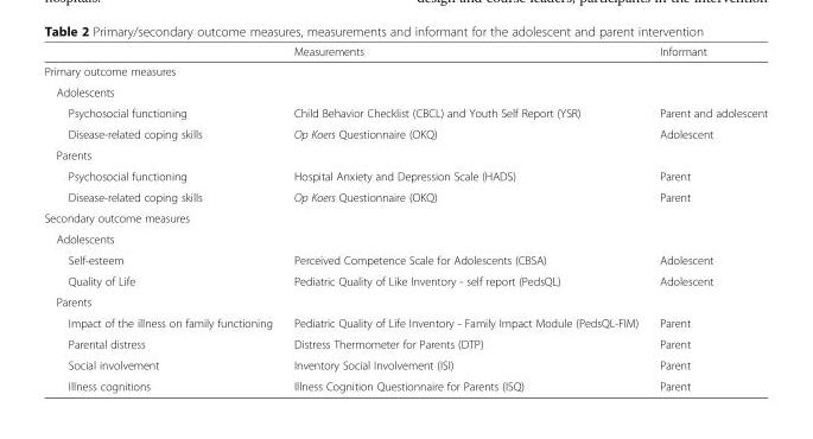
<table><thead><tr><td></td><td>Measurements</td><td>Informant</td></tr></thead><tbody><tr><td colspan="3">Primary outcome measures</td></tr><tr><td colspan="3">Adolescents</td></tr><tr><td>Psychosocial functioning</td><td>Child Behavior Checklist (CBCL) and Youth Self Report (YSR)</td><td>Parent and adolescent</td></tr><tr><td>Disease-related coping skills</td><td>Op Koers Questionnaire (OKQ)</td><td>Adolescent</td></tr><tr><td colspan="3">Parents</td></tr><tr><td>Psychosocial functioning</td><td>Hospital Anxiety and Depression Scale (HADS)</td><td>Parent</td></tr><tr><td>Disease-related coping skills</td><td>Op Koers Questionnaire (OKQ)</td><td>Parent</td></tr><tr><td colspan="3">Secondary outcome measures</td></tr><tr><td colspan="3">Adolescents</td></tr><tr><td>Self-esteem</td><td>Perceived Competence Scale for Adolescents (CBSA)</td><td>Adolescent</td></tr><tr><td>Quality of Life</td><td>Pediatric Quality of Like Inventory - self report (PedsQL)</td><td>Adolescent</td></tr><tr><td colspan="3">Parents</td></tr><tr><td>Impact of the illness on family functioning</td><td>Pediatric Quality of Life Inventory - Family Impact Module (PedsQL-FIM)</td><td>Parent</td></tr><tr><td>Parental distress</td><td>Distress Thermometer for Parents (DTP)</td><td>Parent</td></tr><tr><td>Social involvement</td><td>Inventory Social Involvement (ISI)</td><td>Parent</td></tr><tr><td>Illness cognitions</td><td>Illness Cognition Questionnaire for Parents (ISQ)</td><td>Parent</td></tr></tbody></table>